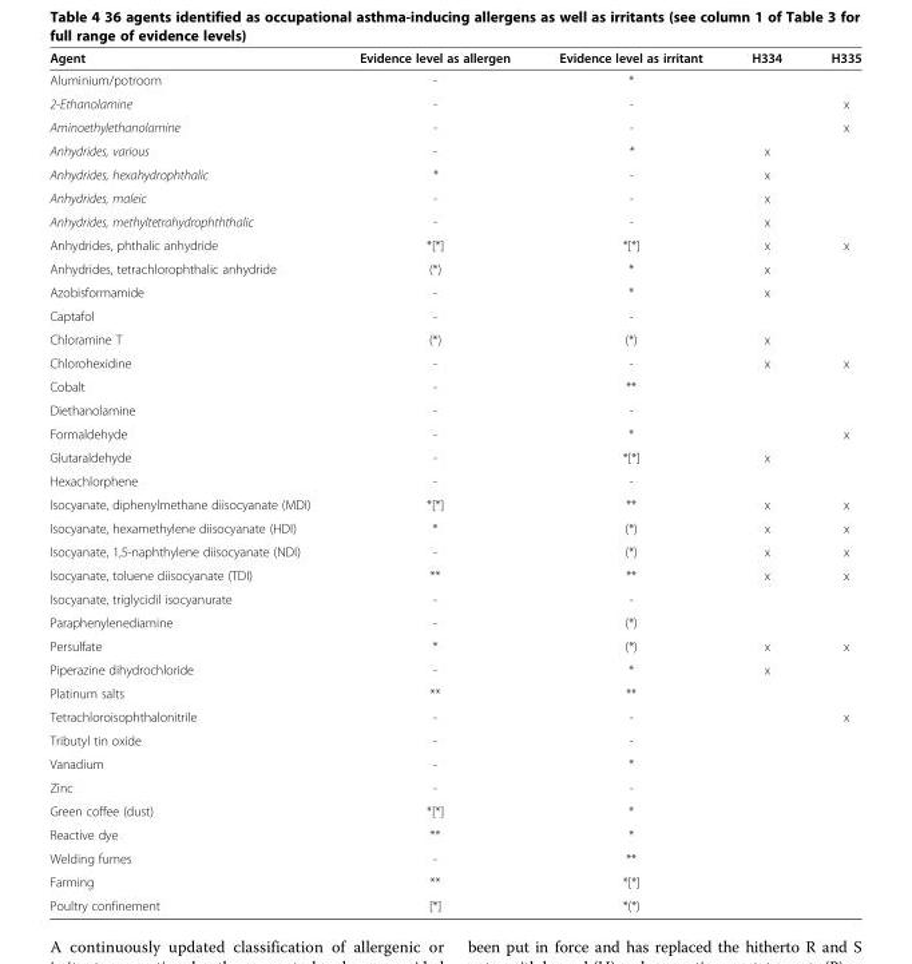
<table><thead><tr><td>Agent</td><td>Evidence level as allergen</td><td>Evidence level as irritant</td><td>H334</td><td>H335</td></tr></thead><tbody><tr><td>Aluminium/potroom</td><td>-</td><td>*</td><td></td><td></td></tr><tr><td>2-Ethanolamine</td><td>-</td><td>-</td><td></td><td>x</td></tr><tr><td>Aminoethylethanolamine</td><td>-</td><td>-</td><td></td><td>x</td></tr><tr><td>Anhydrides, various</td><td>-</td><td>*</td><td>x</td><td></td></tr><tr><td>Anhydrides, hexahydrophthalic</td><td>*</td><td>-</td><td>x</td><td></td></tr><tr><td>Anhydrides, maleic</td><td>-</td><td>-</td><td>x</td><td></td></tr><tr><td>Anhydrides, methyltetrahydrophththalic</td><td>-</td><td>-</td><td>x</td><td></td></tr><tr><td>Anhydrides, phthalic anhydride</td><td>*[*]</td><td>*[*]</td><td>x</td><td>x</td></tr><tr><td>Anhydrides, tetrachlorophthalic anhydride</td><td>(*)</td><td>*</td><td>x</td><td></td></tr><tr><td>Azobisformamide</td><td>-</td><td>*</td><td>x</td><td></td></tr><tr><td>Captafol</td><td>-</td><td>-</td><td></td><td></td></tr><tr><td>Chloramine T</td><td>(*)</td><td>(*)</td><td>x</td><td></td></tr><tr><td>Chlorohexidine</td><td>-</td><td>-</td><td>x</td><td>x</td></tr><tr><td>Cobalt</td><td>-</td><td>**</td><td></td><td></td></tr><tr><td>Diethanolamine</td><td>-</td><td>-</td><td></td><td></td></tr><tr><td>Formaldehyde</td><td>-</td><td>*</td><td></td><td>x</td></tr><tr><td>Glutaraldehyde</td><td>-</td><td>*[*]</td><td>x</td><td></td></tr><tr><td>Hexachlorphene</td><td>-</td><td>-</td><td></td><td></td></tr><tr><td>Isocyanate, diphenylmethane diisocyanate (MDI)</td><td>*[*]</td><td>**</td><td>x</td><td>x</td></tr><tr><td>Isocyanate, hexamethylene diisocyanate (HDI)</td><td>*</td><td>(*)</td><td>x</td><td>x</td></tr><tr><td>Isocyanate, 1,5-naphthylene diisocyanate (NDI)</td><td>-</td><td>(*)</td><td>x</td><td>x</td></tr><tr><td>Isocyanate, toluene diisocyanate (TDI)</td><td>**</td><td>**</td><td>x</td><td>x</td></tr><tr><td>Isocyanate, triglycidil isocyanurate</td><td>-</td><td>-</td><td></td><td></td></tr><tr><td>Paraphenylenediamine</td><td>-</td><td>(*)</td><td></td><td></td></tr><tr><td>Persulfate</td><td>*</td><td>(*)</td><td>x</td><td>x</td></tr><tr><td>Piperazine dihydrochloride</td><td>-</td><td>*</td><td>x</td><td></td></tr><tr><td>Platinum salts</td><td>**</td><td>**</td><td></td><td></td></tr><tr><td>Tetrachloroisophthalonitrile</td><td>-</td><td>-</td><td></td><td>x</td></tr><tr><td>Tributyl tin oxide</td><td>-</td><td>-</td><td></td><td></td></tr><tr><td>Vanadium</td><td>-</td><td>*</td><td></td><td></td></tr><tr><td>Zinc</td><td>-</td><td>-</td><td></td><td></td></tr><tr><td>Green coffee (dust)</td><td>*[*]</td><td>*</td><td></td><td></td></tr><tr><td>Reactive dye</td><td>**</td><td>*</td><td></td><td></td></tr><tr><td>Welding fumes</td><td>-</td><td>**</td><td></td><td></td></tr><tr><td>Farming</td><td>**</td><td>*[*]</td><td></td><td></td></tr><tr><td>Poultry confinement</td><td>[*]</td><td>*(*)</td><td></td><td></td></tr></tbody></table>